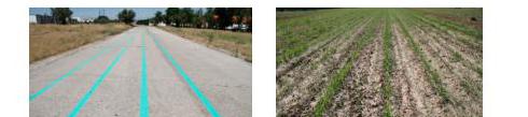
<table><thead><tr><td>Approach</td><td>Effectiveness (%)</td><td>Mean Processing Time (seconds)</td></tr></thead><tbody><tr><td>Proposed approach</td><td>96.4</td><td>0.069</td></tr><tr><td>Hough-transform-based approach</td><td>88.4</td><td>0.258</td></tr></tbody></table>